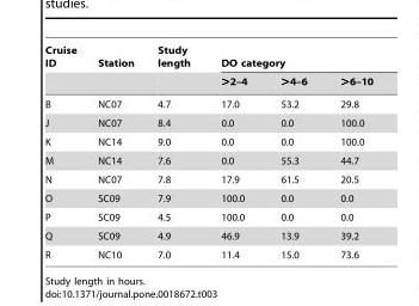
<table><thead><tr><td rowspan="2">Cruise ID</td><td rowspan="2">Station</td><td rowspan="2">Study length</td><td colspan="3">DO category</td></tr><tr><td>&gt;2–4</td><td>&gt;4–6</td><td>&gt;6–10</td></tr></thead><tbody><tr><td>B</td><td>NC07</td><td>4.7</td><td>17.0</td><td>53.2</td><td>29.8</td></tr><tr><td>J</td><td>NC07</td><td>8.4</td><td>0.0</td><td>0.0</td><td>100.0</td></tr><tr><td>K</td><td>NC14</td><td>9.0</td><td>0.0</td><td>0.0</td><td>100.0</td></tr><tr><td>M</td><td>NC14</td><td>7.6</td><td>0.0</td><td>55.3</td><td>44.7</td></tr><tr><td>N</td><td>NC07</td><td>7.8</td><td>17.9</td><td>61.5</td><td>20.5</td></tr><tr><td>O</td><td>SC09</td><td>7.9</td><td>100.0</td><td>0.0</td><td>0.0</td></tr><tr><td>P</td><td>SC09</td><td>4.5</td><td>100.0</td><td>0.0</td><td>0.0</td></tr><tr><td>Q</td><td>SC09</td><td>4.9</td><td>46.9</td><td>13.9</td><td>39.2</td></tr><tr><td>R</td><td>NC10</td><td>7.0</td><td>11.4</td><td>15.0</td><td>73.6</td></tr></tbody></table>